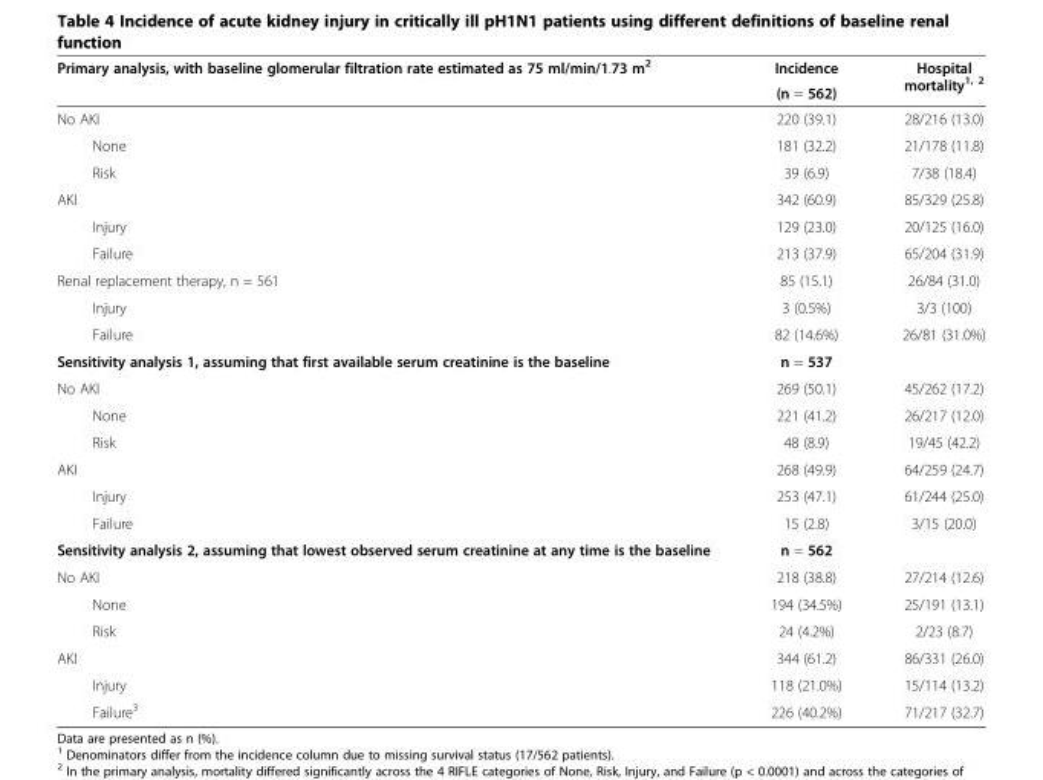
<table><thead><tr><td rowspan="2">Primary analysis, with baseline glomerular filtration rate estimated as 75 ml/min/1.73 m<sup>2</sup></td><td rowspan="2">Incidence (n = 562)</td><td rowspan="2">Hospital mortality<sup>1, 2</sup></td></tr><tr></tr></thead><tbody><tr><td>No AKI</td><td>220 (39.1)</td><td>28/216 (13.0)</td></tr><tr><td>None</td><td>181 (32.2)</td><td>21/178 (11.8)</td></tr><tr><td>Risk</td><td>39 (6.9)</td><td>7/38 (18.4)</td></tr><tr><td>AKI</td><td>342 (60.9)</td><td>85/329 (25.8)</td></tr><tr><td>Injury</td><td>129 (23.0)</td><td>20/125 (16.0)</td></tr><tr><td>Failure</td><td>213 (37.9)</td><td>65/204 (31.9)</td></tr><tr><td>Renal replacement therapy, n = 561</td><td>85 (15.1)</td><td>26/84 (31.0)</td></tr><tr><td>Injury</td><td>3 (0.5%)</td><td>3/3 (100)</td></tr><tr><td>Failure</td><td>82 (14.6%)</td><td>26/81 (31.0%)</td></tr><tr><td>Sensitivity analysis 1, assuming that first available serum creatinine is the baseline</td><td>n = 537</td><td></td></tr><tr><td>No AKI</td><td>269 (50.1)</td><td>45/262 (17.2)</td></tr><tr><td>None</td><td>221 (41.2)</td><td>26/217 (12.0)</td></tr><tr><td>Risk</td><td>48 (8.9)</td><td>19/45 (42.2)</td></tr><tr><td>AKI</td><td>268 (49.9)</td><td>64/259 (24.7)</td></tr><tr><td>Injury</td><td>253 (47.1)</td><td>61/244 (25.0)</td></tr><tr><td>Failure</td><td>15 (2.8)</td><td>3/15 (20.0)</td></tr><tr><td>Sensitivity analysis 2, assuming that lowest observed serum creatinine at any time is the baseline</td><td>n = 562</td><td></td></tr><tr><td>No AKI</td><td>218 (38.8)</td><td>27/214 (12.6)</td></tr><tr><td>None</td><td>194 (34.5%)</td><td>25/191 (13.1)</td></tr><tr><td>Risk</td><td>24 (4.2%)</td><td>2/23 (8.7)</td></tr><tr><td>AKI</td><td>344 (61.2)</td><td>86/331 (26.0)</td></tr><tr><td>Injury</td><td>118 (21.0%)</td><td>15/114 (13.2)</td></tr><tr><td>Failure<sup>3</sup></td><td>226 (40.2%)</td><td>71/217 (32.7)</td></tr></tbody></table>